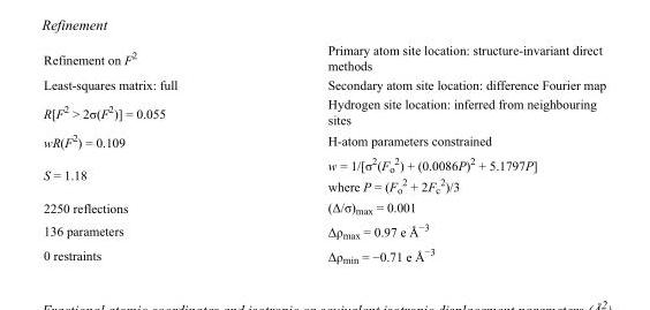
<table><tbody><tr><td>Refinement on F<sup>2</sup></td><td>Primary atom site location: structure-invariant direct methods</td></tr><tr><td>Least-squares matrix: full</td><td>Secondary atom site location: difference Fourier map</td></tr><tr><td>R[F<sup>2</sup> &gt; 2σ(F<sup>2</sup>)] = 0.055</td><td>Hydrogen site location: inferred from neighbouring sites</td></tr><tr><td>wR(F<sup>2</sup>) = 0.109</td><td>H-atom parameters constrained</td></tr><tr><td>S = 1.18</td><td>w = 1/[σ<sup>2</sup>(F<sub>o</sub> <sup>2</sup>) + (0.0086P)<sup>2</sup> + 5.1797P] where P = (F<sub>o</sub> <sup>2</sup> + 2F<sub>c</sub> <sup>2</sup>)/3</td></tr><tr><td>2250 reflections</td><td>(Δ/σ)<sub>max</sub> = 0.001</td></tr><tr><td>136 parameters</td><td>Δρ<sub>max</sub> = 0.97 e Å<sup>−3</sup></td></tr><tr><td>0 restraints</td><td>Δρ<sub>min</sub> = −0.71 e Å<sup>−3</sup></td></tr></tbody></table>